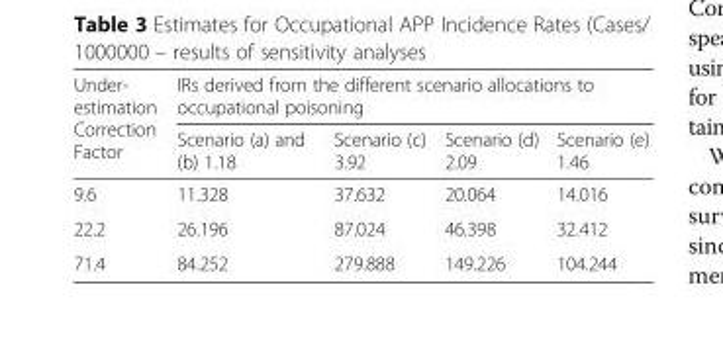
<table><thead><tr><td rowspan="2">Under- estimation Correction Factor</td><td colspan="4">IRs derived from the different scenario allocations to occupational poisoning</td></tr><tr><td>Scenario (a) and (b) 1.18</td><td>Scenario (c) 3.92</td><td>Scenario (d) 2.09</td><td>Scenario (e) 1.46</td></tr></thead><tbody><tr><td>9.6</td><td>11.328</td><td>37.632</td><td>20.064</td><td>14.016</td></tr><tr><td>22.2</td><td>26.196</td><td>87.024</td><td>46.398</td><td>32.412</td></tr><tr><td>71.4</td><td>84.252</td><td>279.888</td><td>149.226</td><td>104.244</td></tr></tbody></table>